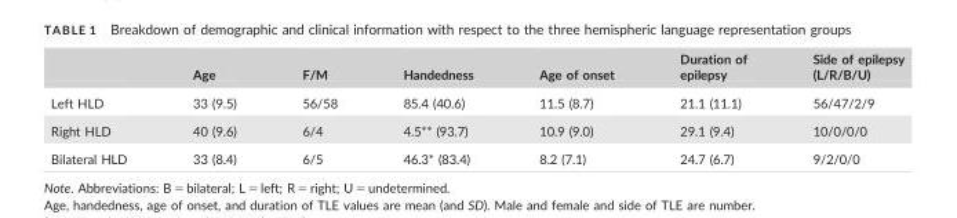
<table><thead><tr><td></td><td>Age</td><td>F/M</td><td>Handedness</td><td>Age of onset</td><td>Duration of epilepsy</td><td>Side of epilepsy (L/R/B/U)</td></tr></thead><tbody><tr><td>Left HLD</td><td>33 (9.5)</td><td>56/58</td><td>85.4 (40.6)</td><td>11.5 (8.7)</td><td>21.1 (11.1)</td><td>56/47/2/9</td></tr><tr><td>Right HLD</td><td>40 (9.6)</td><td>6/4</td><td>4.5** (93.7)</td><td>10.9 (9.0)</td><td>29.1 (9.4)</td><td>10/0/0/0</td></tr><tr><td>Bilateral HLD</td><td>33 (8.4)</td><td>6/5</td><td>46.3* (83.4)</td><td>8.2 (7.1)</td><td>24.7 (6.7)</td><td>9/2/0/0</td></tr></tbody></table>